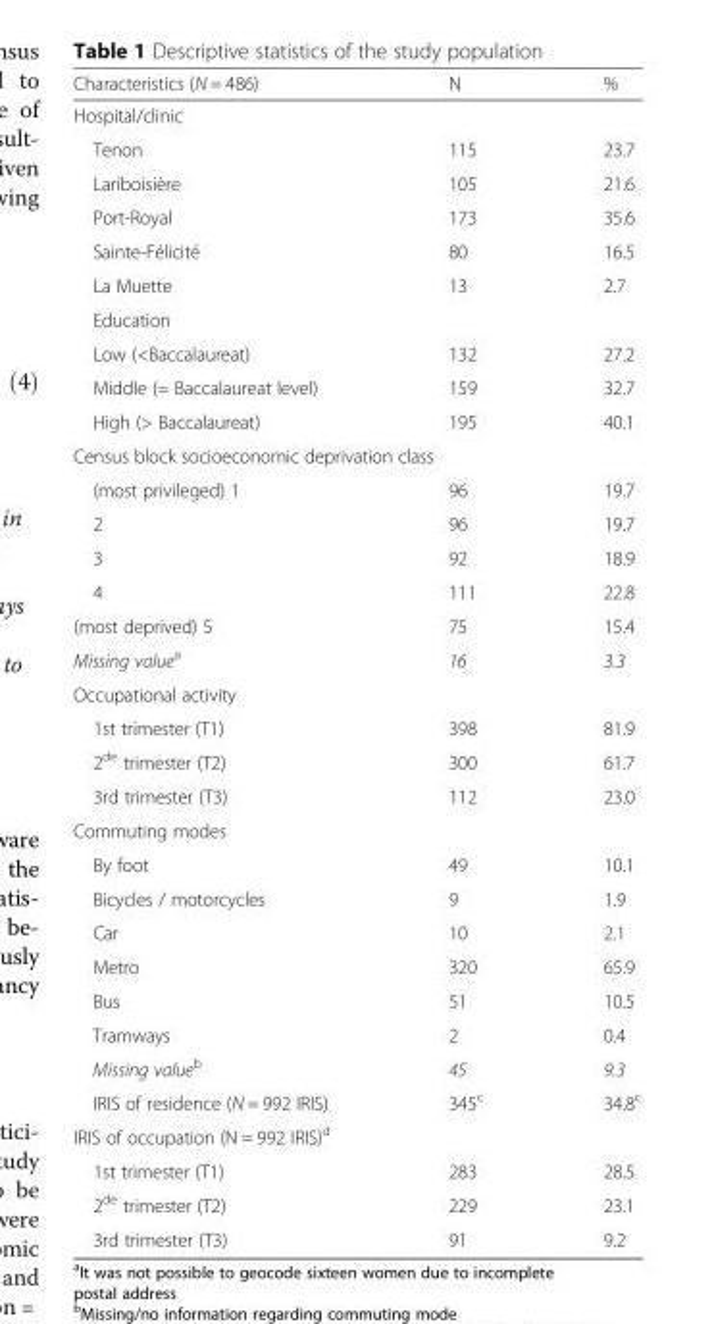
<table><thead><tr><td>Characteristics (N = 486)</td><td>N</td><td>%</td></tr></thead><tbody><tr><td colspan="3">Hospital/clinic</td></tr><tr><td>Tenon</td><td>115</td><td>23.7</td></tr><tr><td>Lariboisière</td><td>105</td><td>21.6</td></tr><tr><td>Port-Royal</td><td>173</td><td>35.6</td></tr><tr><td>Sainte-Félicité</td><td>80</td><td>16.5</td></tr><tr><td>La Muette</td><td>13</td><td>2.7</td></tr><tr><td colspan="3">Education</td></tr><tr><td>Low (&lt;Baccalaureat)</td><td>132</td><td>27.2</td></tr><tr><td>Middle (= Baccalaureat level)</td><td>159</td><td>32.7</td></tr><tr><td>High (&gt; Baccalaureat)</td><td>195</td><td>40.1</td></tr><tr><td colspan="3">Census block socioeconomic deprivation class</td></tr><tr><td>(most privileged) 1</td><td>96</td><td>19.7</td></tr><tr><td>2</td><td>96</td><td>19.7</td></tr><tr><td>3</td><td>92</td><td>18.9</td></tr><tr><td>4</td><td>111</td><td>22.8</td></tr><tr><td>(most deprived) 5</td><td>75</td><td>15.4</td></tr><tr><td>Missing value<sup>a</sup></td><td>16</td><td>3.3</td></tr><tr><td colspan="3">Occupational activity</td></tr><tr><td>1st trimester (T1)</td><td>398</td><td>81.9</td></tr><tr><td>2<sup>de</sup> trimester (T2)</td><td>300</td><td>61.7</td></tr><tr><td>3rd trimester (T3)</td><td>112</td><td>23.0</td></tr><tr><td colspan="3">Commuting modes</td></tr><tr><td>By foot</td><td>49</td><td>10.1</td></tr><tr><td>Bicycles / motorcycles</td><td>9</td><td>1.9</td></tr><tr><td>Car</td><td>10</td><td>2.1</td></tr><tr><td>Metro</td><td>320</td><td>65.9</td></tr><tr><td>Bus</td><td>51</td><td>10.5</td></tr><tr><td>Tramways</td><td>2</td><td>0.4</td></tr><tr><td>Missing value<sup>b</sup></td><td>45</td><td>9.3</td></tr><tr><td>IRIS of residence (N = 992 IRIS)</td><td>345<sup>c</sup></td><td>34.8<sup>c</sup></td></tr><tr><td colspan="3">IRIS of occupation (N = 992 IRIS)<sup>d</sup></td></tr><tr><td>1st trimester (T1)</td><td>283</td><td>28.5</td></tr><tr><td>2<sup>de</sup> trimester (T2)</td><td>229</td><td>23.1</td></tr><tr><td>3rd trimester (T3)</td><td>91</td><td>9.2</td></tr></tbody></table>